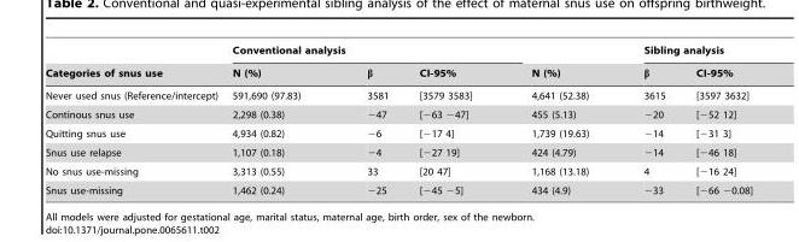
<table><thead><tr><td rowspan="2">Categories of snus use</td><td colspan="3">Conventional analysis</td><td rowspan="2">N (%)</td><td colspan="2">Sibling analysis</td></tr><tr><td>N (%)</td><td>β</td><td>CI-95%</td><td>β</td><td>CI-95%</td></tr></thead><tbody><tr><td>Never used snus (Reference/intercept)</td><td>591,690 (97.83)</td><td>3581</td><td>[3579 3583]</td><td>4,641 (52.38)</td><td>3615</td><td>[3597 3632]</td></tr><tr><td>Continous snus use</td><td>2,298 (0.38)</td><td>−47</td><td>[−63 −47]</td><td>455 (5.13)</td><td>−20</td><td>[−52 12]</td></tr><tr><td>Quitting snus use</td><td>4,934 (0.82)</td><td>−6</td><td>[−17 4]</td><td>1,739 (19.63)</td><td>−14</td><td>[−31 3]</td></tr><tr><td>Snus use relapse</td><td>1,107 (0.18)</td><td>−4</td><td>[−27 19]</td><td>424 (4.79)</td><td>−14</td><td>[−46 18]</td></tr><tr><td>No snus use-missing</td><td>3,313 (0.55)</td><td>33</td><td>[20 47]</td><td>1,168 (13.18)</td><td>4</td><td>[−16 24]</td></tr><tr><td>Snus use-missing</td><td>1,462 (0.24)</td><td>−25</td><td>[−45 −5]</td><td>434 (4.9)</td><td>−33</td><td>[−66 −0.08]</td></tr></tbody></table>